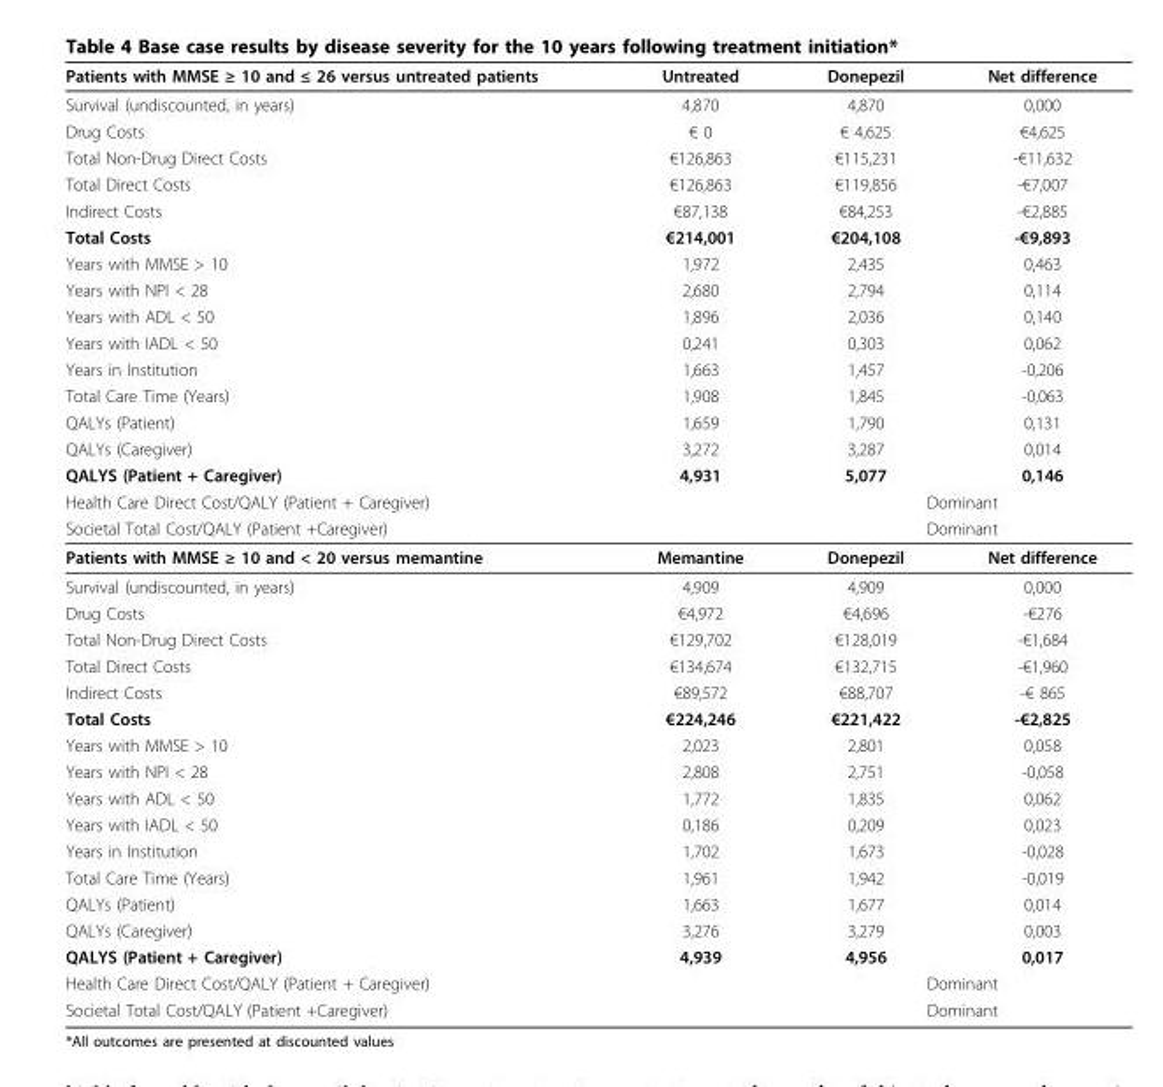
<table><thead><tr><td>Patients with MMSE ≥ 10 and ≤ 26 versus untreated patients</td><td>Untreated</td><td>Donepezil</td><td>Net difference</td></tr></thead><tbody><tr><td>Survival (undiscounted, in years)</td><td>4,870</td><td>4,870</td><td>0,000</td></tr><tr><td>Drug Costs</td><td>€ 0</td><td>€ 4,625</td><td>€4,625</td></tr><tr><td>Total Non-Drug Direct Costs</td><td>€126,863</td><td>€115,231</td><td>-€11,632</td></tr><tr><td>Total Direct Costs</td><td>€126,863</td><td>€119,856</td><td>-€7,007</td></tr><tr><td>Indirect Costs</td><td>€87,138</td><td>€84,253</td><td>-€2,885</td></tr><tr><td>Total Costs</td><td>€214,001</td><td>€204,108</td><td>-€9,893</td></tr><tr><td>Years with MMSE &gt; 10</td><td>1,972</td><td>2,435</td><td>0,463</td></tr><tr><td>Years with NPI &lt; 28</td><td>2,680</td><td>2,794</td><td>0,114</td></tr><tr><td>Years with ADL &lt; 50</td><td>1,896</td><td>2,036</td><td>0,140</td></tr><tr><td>Years with IADL &lt; 50</td><td>0,241</td><td>0,303</td><td>0,062</td></tr><tr><td>Years in Institution</td><td>1,663</td><td>1,457</td><td>-0,206</td></tr><tr><td>Total Care Time (Years)</td><td>1,908</td><td>1,845</td><td>-0,063</td></tr><tr><td>QALYs (Patient)</td><td>1,659</td><td>1,790</td><td>0,131</td></tr><tr><td>QALYs (Caregiver)</td><td>3,272</td><td>3,287</td><td>0,014</td></tr><tr><td>QALYS (Patient + Caregiver)</td><td>4,931</td><td>5,077</td><td>0,146</td></tr><tr><td>Health Care Direct Cost/QALY (Patient + Caregiver)</td><td></td><td colspan="2">Dominant</td></tr><tr><td>Societal Total Cost/QALY (Patient +Caregiver)</td><td></td><td colspan="2">Dominant</td></tr><tr><td>Patients with MMSE ≥ 10 and &lt; 20 versus memantine</td><td>Memantine</td><td>Donepezil</td><td>Net difference</td></tr><tr><td>Survival (undiscounted, in years)</td><td>4,909</td><td>4,909</td><td>0,000</td></tr><tr><td>Drug Costs</td><td>€4,972</td><td>€4,696</td><td>-€276</td></tr><tr><td>Total Non-Drug Direct Costs</td><td>€129,702</td><td>€128,019</td><td>-€1,684</td></tr><tr><td>Total Direct Costs</td><td>€134,674</td><td>€132,715</td><td>-€1,960</td></tr><tr><td>Indirect Costs</td><td>€89,572</td><td>€88,707</td><td>-€ 865</td></tr><tr><td>Total Costs</td><td>€224,246</td><td>€221,422</td><td>-€2,825</td></tr><tr><td>Years with MMSE &gt; 10</td><td>2,023</td><td>2,801</td><td>0,058</td></tr><tr><td>Years with NPI &lt; 28</td><td>2,808</td><td>2,751</td><td>-0,058</td></tr><tr><td>Years with ADL &lt; 50</td><td>1,772</td><td>1,835</td><td>0,062</td></tr><tr><td>Years with IADL &lt; 50</td><td>0,186</td><td>0,209</td><td>0,023</td></tr><tr><td>Years in Institution</td><td>1,702</td><td>1,673</td><td>-0,028</td></tr><tr><td>Total Care Time (Years)</td><td>1,961</td><td>1,942</td><td>-0,019</td></tr><tr><td>QALYs (Patient)</td><td>1,663</td><td>1,677</td><td>0,014</td></tr><tr><td>QALYs (Caregiver)</td><td>3,276</td><td>3,279</td><td>0,003</td></tr><tr><td>QALYS (Patient + Caregiver)</td><td>4,939</td><td>4,956</td><td>0,017</td></tr><tr><td>Health Care Direct Cost/QALY (Patient + Caregiver)</td><td></td><td colspan="2">Dominant</td></tr><tr><td>Societal Total Cost/QALY (Patient +Caregiver)</td><td></td><td colspan="2">Dominant</td></tr></tbody></table>